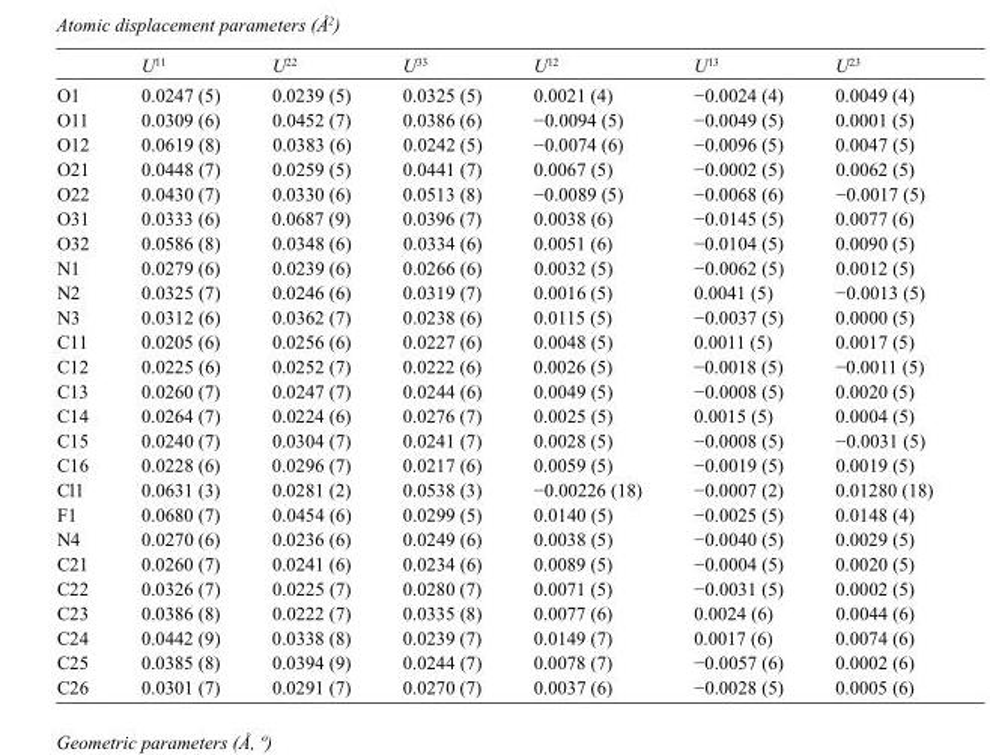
<table><thead><tr><td></td><td>U<sup>11</sup></td><td>U<sup>22</sup></td><td>U<sup>33</sup></td><td>U<sup>12</sup></td><td>U<sup>13</sup></td><td>U<sup>23</sup></td></tr></thead><tbody><tr><td>O1</td><td>0.0247 (5)</td><td>0.0239 (5)</td><td>0.0325 (5)</td><td>0.0021 (4)</td><td>−0.0024 (4)</td><td>0.0049 (4)</td></tr><tr><td>O11</td><td>0.0309 (6)</td><td>0.0452 (7)</td><td>0.0386 (6)</td><td>−0.0094 (5)</td><td>−0.0049 (5)</td><td>0.0001 (5)</td></tr><tr><td>O12</td><td>0.0619 (8)</td><td>0.0383 (6)</td><td>0.0242 (5)</td><td>−0.0074 (6)</td><td>−0.0096 (5)</td><td>0.0047 (5)</td></tr><tr><td>O21</td><td>0.0448 (7)</td><td>0.0259 (5)</td><td>0.0441 (7)</td><td>0.0067 (5)</td><td>−0.0002 (5)</td><td>0.0062 (5)</td></tr><tr><td>O22</td><td>0.0430 (7)</td><td>0.0330 (6)</td><td>0.0513 (8)</td><td>−0.0089 (5)</td><td>−0.0068 (6)</td><td>−0.0017 (5)</td></tr><tr><td>O31</td><td>0.0333 (6)</td><td>0.0687 (9)</td><td>0.0396 (7)</td><td>0.0038 (6)</td><td>−0.0145 (5)</td><td>0.0077 (6)</td></tr><tr><td>O32</td><td>0.0586 (8)</td><td>0.0348 (6)</td><td>0.0334 (6)</td><td>0.0051 (6)</td><td>−0.0104 (5)</td><td>0.0090 (5)</td></tr><tr><td>N1</td><td>0.0279 (6)</td><td>0.0239 (6)</td><td>0.0266 (6)</td><td>0.0032 (5)</td><td>−0.0062 (5)</td><td>0.0012 (5)</td></tr><tr><td>N2</td><td>0.0325 (7)</td><td>0.0246 (6)</td><td>0.0319 (7)</td><td>0.0016 (5)</td><td>0.0041 (5)</td><td>−0.0013 (5)</td></tr><tr><td>N3</td><td>0.0312 (6)</td><td>0.0362 (7)</td><td>0.0238 (6)</td><td>0.0115 (5)</td><td>−0.0037 (5)</td><td>0.0000 (5)</td></tr><tr><td>C11</td><td>0.0205 (6)</td><td>0.0256 (6)</td><td>0.0227 (6)</td><td>0.0048 (5)</td><td>0.0011 (5)</td><td>0.0017 (5)</td></tr><tr><td>C12</td><td>0.0225 (6)</td><td>0.0252 (7)</td><td>0.0222 (6)</td><td>0.0026 (5)</td><td>−0.0018 (5)</td><td>−0.0011 (5)</td></tr><tr><td>C13</td><td>0.0260 (7)</td><td>0.0247 (7)</td><td>0.0244 (6)</td><td>0.0049 (5)</td><td>−0.0008 (5)</td><td>0.0020 (5)</td></tr><tr><td>C14</td><td>0.0264 (7)</td><td>0.0224 (6)</td><td>0.0276 (7)</td><td>0.0025 (5)</td><td>0.0015 (5)</td><td>0.0004 (5)</td></tr><tr><td>C15</td><td>0.0240 (7)</td><td>0.0304 (7)</td><td>0.0241 (7)</td><td>0.0028 (5)</td><td>−0.0008 (5)</td><td>−0.0031 (5)</td></tr><tr><td>C16</td><td>0.0228 (6)</td><td>0.0296 (7)</td><td>0.0217 (6)</td><td>0.0059 (5)</td><td>−0.0019 (5)</td><td>0.0019 (5)</td></tr><tr><td>Cl1</td><td>0.0631 (3)</td><td>0.0281 (2)</td><td>0.0538 (3)</td><td>−0.00226 (18)</td><td>−0.0007 (2)</td><td>0.01280 (18)</td></tr><tr><td>F1</td><td>0.0680 (7)</td><td>0.0454 (6)</td><td>0.0299 (5)</td><td>0.0140 (5)</td><td>−0.0025 (5)</td><td>0.0148 (4)</td></tr><tr><td>N4</td><td>0.0270 (6)</td><td>0.0236 (6)</td><td>0.0249 (6)</td><td>0.0038 (5)</td><td>−0.0040 (5)</td><td>0.0029 (5)</td></tr><tr><td>C21</td><td>0.0260 (7)</td><td>0.0241 (6)</td><td>0.0234 (6)</td><td>0.0089 (5)</td><td>−0.0004 (5)</td><td>0.0020 (5)</td></tr><tr><td>C22</td><td>0.0326 (7)</td><td>0.0225 (7)</td><td>0.0280 (7)</td><td>0.0071 (5)</td><td>−0.0031 (5)</td><td>0.0002 (5)</td></tr><tr><td>C23</td><td>0.0386 (8)</td><td>0.0222 (7)</td><td>0.0335 (8)</td><td>0.0077 (6)</td><td>0.0024 (6)</td><td>0.0044 (6)</td></tr><tr><td>C24</td><td>0.0442 (9)</td><td>0.0338 (8)</td><td>0.0239 (7)</td><td>0.0149 (7)</td><td>0.0017 (6)</td><td>0.0074 (6)</td></tr><tr><td>C25</td><td>0.0385 (8)</td><td>0.0394 (9)</td><td>0.0244 (7)</td><td>0.0078 (7)</td><td>−0.0057 (6)</td><td>0.0002 (6)</td></tr><tr><td>C26</td><td>0.0301 (7)</td><td>0.0291 (7)</td><td>0.0270 (7)</td><td>0.0037 (6)</td><td>−0.0028 (5)</td><td>0.0005 (6)</td></tr></tbody></table>